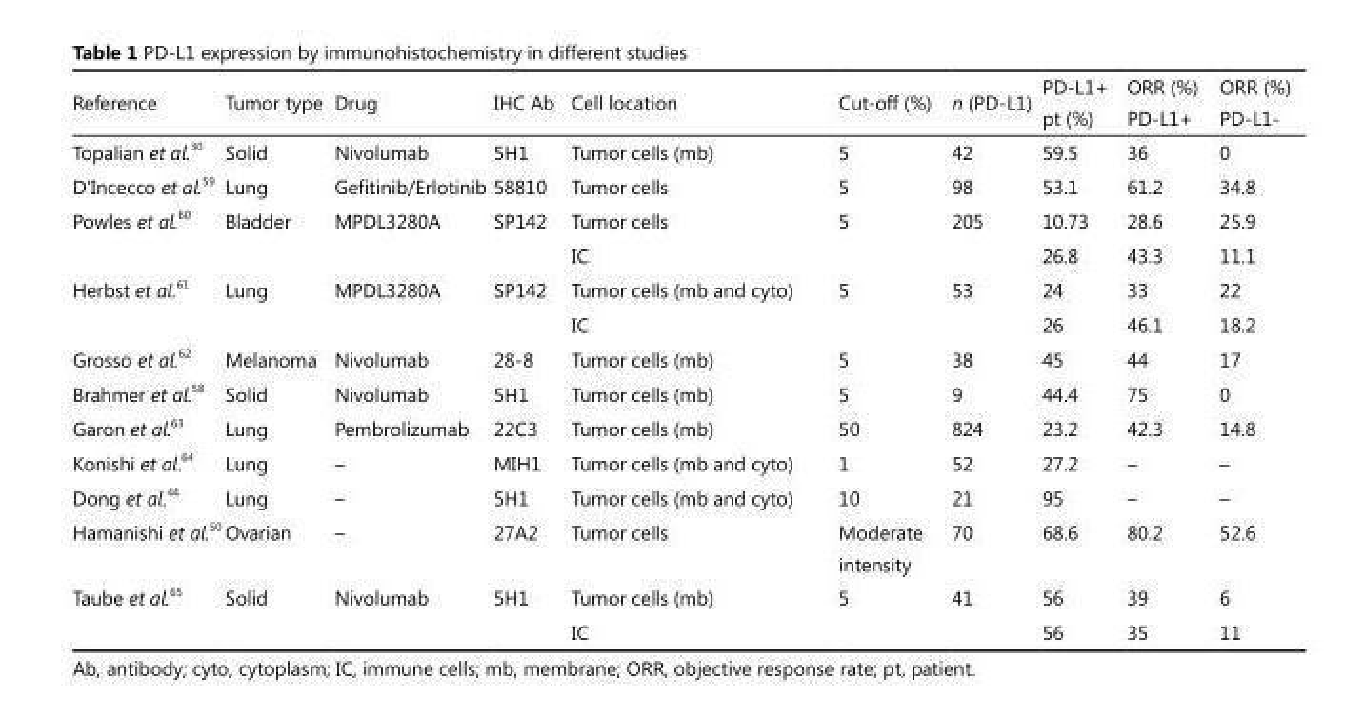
<table><thead><tr><td>Reference</td><td>Tumor type</td><td>Drug</td><td>IHC Ab</td><td>Cell location</td><td>Cut-off (%)</td><td>n (PD-L1)</td><td>PD-L1+ pt (%)</td><td>ORR (%) PD-L1+</td><td>ORR (%) PD-L1-</td></tr></thead><tbody><tr><td>Topalian et al. <sup>30</sup></td><td>Solid</td><td>Nivolumab</td><td>5H1</td><td>Tumor cells (mb)</td><td>5</td><td>42</td><td>59.5</td><td>36</td><td>0</td></tr><tr><td>D&#x27;Incecco et al. <sup>59</sup></td><td>Lung</td><td>Gefitinib/Erlotinib</td><td>58810</td><td>Tumor cells</td><td>5</td><td>98</td><td>53.1</td><td>61.2</td><td>34.8</td></tr><tr><td rowspan="2">Powles et al. <sup>60</sup></td><td rowspan="2">Bladder</td><td rowspan="2">MPDL3280A</td><td rowspan="2">SP142</td><td>Tumor cells</td><td rowspan="2">5</td><td rowspan="2">205</td><td>10.73</td><td>28.6</td><td>25.9</td></tr><tr><td>IC</td><td>26.8</td><td>43.3</td><td>11.1</td></tr><tr><td rowspan="2">Herbst et al. <sup>61</sup></td><td rowspan="2">Lung</td><td rowspan="2">MPDL3280A</td><td rowspan="2">SP142</td><td>Tumor cells (mb and cyto)</td><td rowspan="2">5</td><td rowspan="2">53</td><td>24</td><td>33</td><td>22</td></tr><tr><td>IC</td><td>26</td><td>46.1</td><td>18.2</td></tr><tr><td>Grosso et al. <sup>62</sup></td><td>Melanoma</td><td>Nivolumab</td><td>28-8</td><td>Tumor cells (mb)</td><td>5</td><td>38</td><td>45</td><td>44</td><td>17</td></tr><tr><td>Brahmer et al. <sup>58</sup></td><td>Solid</td><td>Nivolumab</td><td>5H1</td><td>Tumor cells (mb)</td><td>5</td><td>9</td><td>44.4</td><td>75</td><td>0</td></tr><tr><td>Garon et al. <sup>63</sup></td><td>Lung</td><td>Pembrolizumab</td><td>22C3</td><td>Tumor cells (mb)</td><td>50</td><td>824</td><td>23.2</td><td>42.3</td><td>14.8</td></tr><tr><td>Konishi et al. <sup>64</sup></td><td>Lung</td><td>–</td><td>MIH1</td><td>Tumor cells (mb and cyto)</td><td>1</td><td>52</td><td>27.2</td><td>–</td><td>–</td></tr><tr><td>Dong et al. <sup>44</sup></td><td>Lung</td><td>–</td><td>5H1</td><td>Tumor cells (mb and cyto)</td><td>10</td><td>21</td><td>95</td><td>–</td><td>–</td></tr><tr><td>Hamanishi et al. <sup>50</sup></td><td>Ovarian</td><td>–</td><td>27A2</td><td>Tumor cells</td><td>Moderate intensity</td><td>70</td><td>68.6</td><td>80.2</td><td>52.6</td></tr><tr><td rowspan="2">Taube et al. <sup>65</sup></td><td rowspan="2">Solid</td><td rowspan="2">Nivolumab</td><td rowspan="2">5H1</td><td>Tumor cells (mb)</td><td rowspan="2">5</td><td rowspan="2">41</td><td>56</td><td>39</td><td>6</td></tr><tr><td>IC</td><td>56</td><td>35</td><td>11</td></tr></tbody></table>